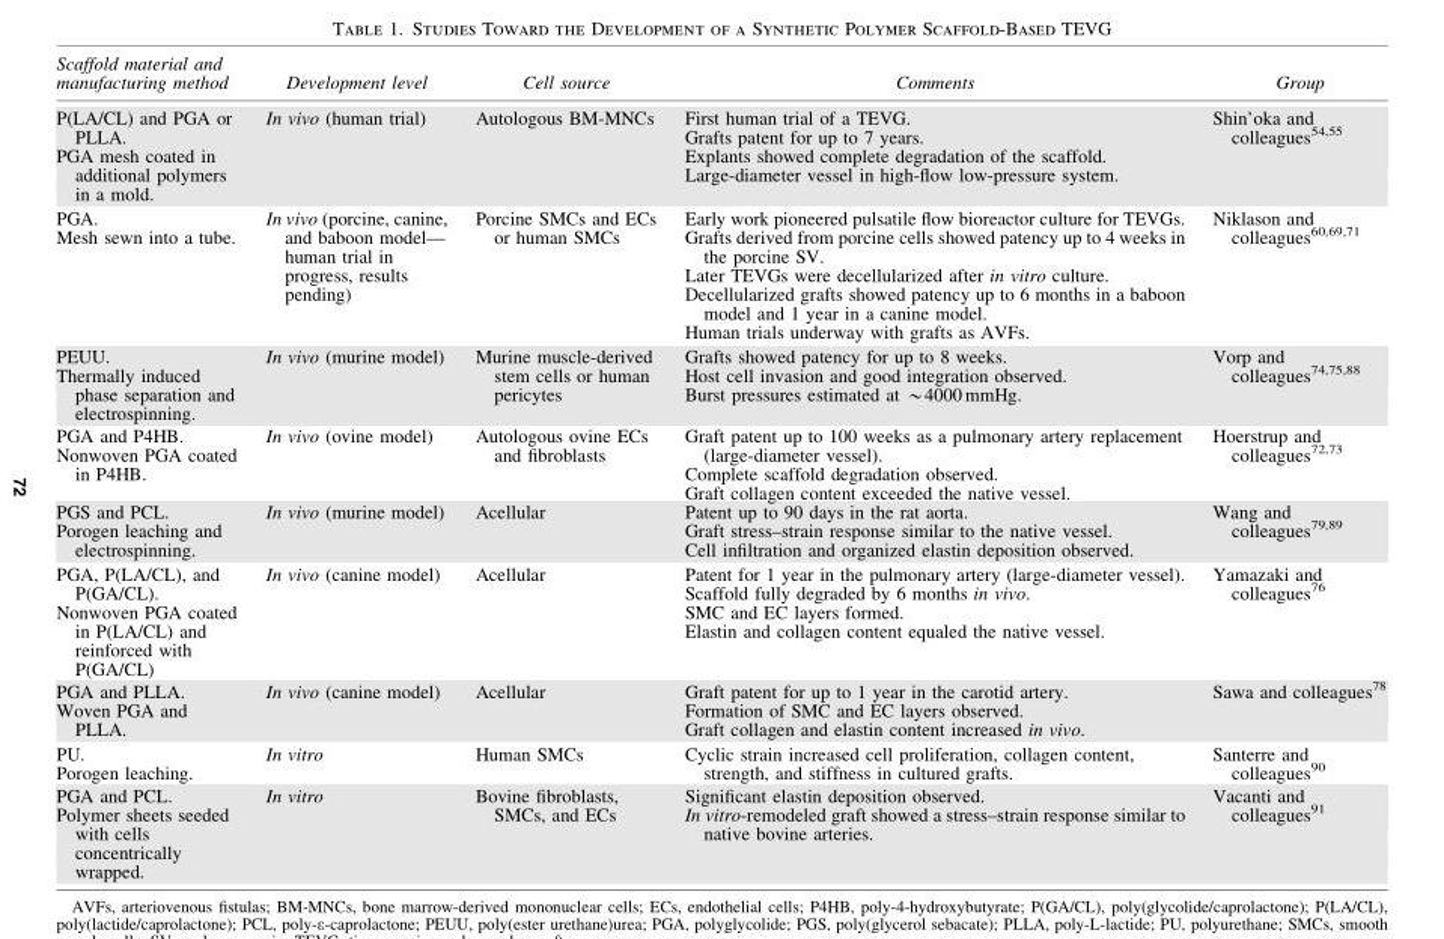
<table><thead><tr><td>Scaffold material and manufacturing method</td><td>Development level</td><td>Cell source</td><td>Comments</td><td>Group</td></tr></thead><tbody><tr><td>P(LA/CL) and PGA or PLLA. PGA mesh coated in additional polymers in a mold.</td><td>In vivo (human trial)</td><td>Autologous BM-MNCs</td><td>First human trial of a TEVG. Grafts patent for up to 7 years. Explants showed complete degradation of the scaffold. Large-diameter vessel in high-flow low-pressure system.</td><td>Shin’oka and colleagues<sup>54,55</sup></td></tr><tr><td>PGA. Mesh sewn into a tube.</td><td>In vivo (porcine, canine, and baboon model— human trial in progress, results pending)</td><td>Porcine SMCs and ECs or human SMCs</td><td>Early work pioneered pulsatile flow bioreactor culture for TEVGs. Grafts derived from porcine cells showed patency up to 4 weeks in the porcine SV. Later TEVGs were decellularized after in vitro culture. Decellularized grafts showed patency up to 6 months in a baboon model and 1 year in a canine model. Human trials underway with grafts as AVFs.</td><td>Niklason and colleagues<sup>60,69,71</sup></td></tr><tr><td>PEUU. Thermally induced phase separation and electrospinning.</td><td>In vivo (murine model)</td><td>Murine muscle-derived stem cells or human pericytes</td><td>Grafts showed patency for up to 8 weeks. Host cell invasion and good integration observed. Burst pressures estimated at *4000 mmHg.</td><td>Vorp and colleagues<sup>74,75,88</sup></td></tr><tr><td>PGA and P4HB. Nonwoven PGA coated in P4HB.</td><td>In vivo (ovine model)</td><td>Autologous ovine ECs and fibroblasts</td><td>Graft patent up to 100 weeks as a pulmonary artery replacement (large-diameter vessel). Complete scaffold degradation observed. Graft collagen content exceeded the native vessel.</td><td>Hoerstrup and colleagues<sup>72,73</sup></td></tr><tr><td>PGS and PCL. Porogen leaching and electrospinning.</td><td>In vivo (murine model)</td><td>Acellular</td><td>Patent up to 90 days in the rat aorta. Graft stress–strain response similar to the native vessel. Cell infiltration and organized elastin deposition observed.</td><td>Wang and colleagues<sup>79,89</sup></td></tr><tr><td>PGA, P(LA/CL), and P(GA/CL). Nonwoven PGA coated in P(LA/CL) and reinforced with P(GA/CL)</td><td>In vivo (canine model)</td><td>Acellular</td><td>Patent for 1 year in the pulmonary artery (large-diameter vessel). Scaffold fully degraded by 6 months in vivo. SMC and EC layers formed. Elastin and collagen content equaled the native vessel.</td><td>Yamazaki and colleagues<sup>76</sup></td></tr><tr><td>PGA and PLLA. Woven PGA and PLLA.</td><td>In vivo (canine model)</td><td>Acellular</td><td>Graft patent for up to 1 year in the carotid artery. Formation of SMC and EC layers observed. Graft collagen and elastin content increased in vivo.</td><td>Sawa and colleagues<sup>78</sup></td></tr><tr><td>PU. Porogen leaching.</td><td>In vitro</td><td>Human SMCs</td><td>Cyclic strain increased cell proliferation, collagen content, strength, and stiffness in cultured grafts.</td><td>Santerre and colleagues<sup>90</sup></td></tr><tr><td>PGA and PCL. Polymer sheets seeded with cells concentrically wrapped.</td><td>In vitro</td><td>Bovine fibroblasts, SMCs, and ECs</td><td>Significant elastin deposition observed. In vitro-remodeled graft showed a stress–strain response similar to native bovine arteries.</td><td>Vacanti and colleagues<sup>91</sup></td></tr></tbody></table>